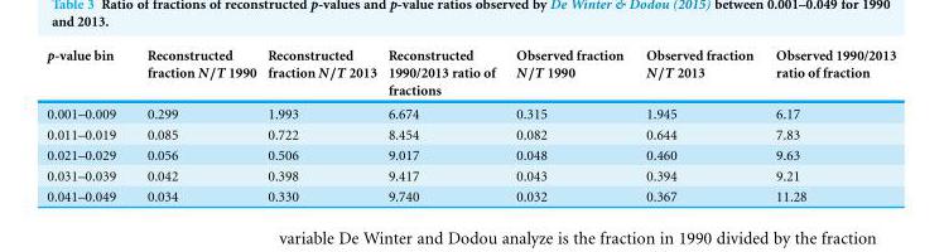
<table><thead><tr><td>p-value bin</td><td>Reconstructed fraction N/T 1990</td><td>Reconstructed fraction N/T 2013</td><td>Reconstructed 1990/2013 ratio of fractions</td><td>Observed fraction N/T 1990</td><td>Observed fraction N/T 2013</td><td>Observed 1990/2013 ratio of fraction</td></tr></thead><tbody><tr><td>0.001–0.009</td><td>0.299</td><td>1.993</td><td>6.674</td><td>0.315</td><td>1.945</td><td>6.17</td></tr><tr><td>0.011–0.019</td><td>0.085</td><td>0.722</td><td>8.454</td><td>0.082</td><td>0.644</td><td>7.83</td></tr><tr><td>0.021–0.029</td><td>0.056</td><td>0.506</td><td>9.017</td><td>0.048</td><td>0.460</td><td>9.63</td></tr><tr><td>0.031–0.039</td><td>0.042</td><td>0.398</td><td>9.417</td><td>0.043</td><td>0.394</td><td>9.21</td></tr><tr><td>0.041–0.049</td><td>0.034</td><td>0.330</td><td>9.740</td><td>0.032</td><td>0.367</td><td>11.28</td></tr></tbody></table>